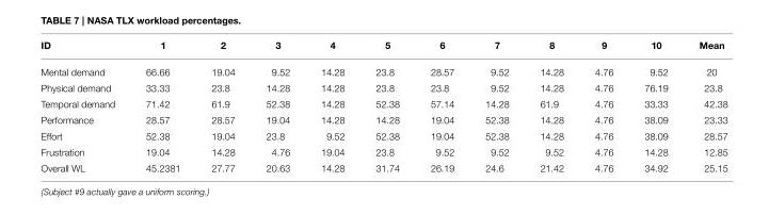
<table><thead><tr><td>ID</td><td>1</td><td>2</td><td>3</td><td>4</td><td>5</td><td>6</td><td>7</td><td>8</td><td>9</td><td>10</td><td>Mean</td></tr></thead><tbody><tr><td>Mental demand</td><td>66.66</td><td>19.04</td><td>9.52</td><td>14.28</td><td>23.8</td><td>28.57</td><td>9.52</td><td>14.28</td><td>4.76</td><td>9.52</td><td>20</td></tr><tr><td>Physical demand</td><td>33.33</td><td>23.8</td><td>14.28</td><td>14.28</td><td>23.8</td><td>23.8</td><td>9.52</td><td>14.28</td><td>4.76</td><td>76.19</td><td>23.8</td></tr><tr><td>Temporal demand</td><td>71.42</td><td>61.9</td><td>52.38</td><td>14.28</td><td>52.38</td><td>57.14</td><td>14.28</td><td>61.9</td><td>4.76</td><td>33.33</td><td>42.38</td></tr><tr><td>Performance</td><td>28.57</td><td>28.57</td><td>19.04</td><td>14.28</td><td>14.28</td><td>19.04</td><td>52.38</td><td>14.28</td><td>4.76</td><td>38.09</td><td>23.33</td></tr><tr><td>Effort</td><td>52.38</td><td>19.04</td><td>23.8</td><td>9.52</td><td>52.38</td><td>19.04</td><td>52.38</td><td>14.28</td><td>4.76</td><td>38.09</td><td>28.57</td></tr><tr><td>Frustration</td><td>19.04</td><td>14.28</td><td>4.76</td><td>19.04</td><td>23.8</td><td>9.52</td><td>9.52</td><td>9.52</td><td>4.76</td><td>14.28</td><td>12.85</td></tr><tr><td>Overall WL</td><td>45.2381</td><td>27.77</td><td>20.63</td><td>14.28</td><td>31.74</td><td>26.19</td><td>24.6</td><td>21.42</td><td>4.76</td><td>34.92</td><td>25.15</td></tr></tbody></table>